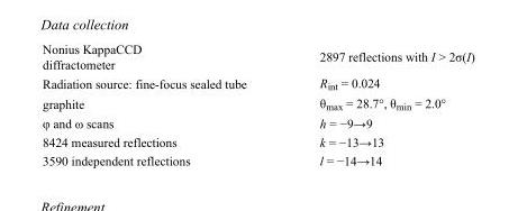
<table><tbody><tr><td>Nonius KappaCCD diffractometer</td><td>2897 reflections with I &gt; 2σ(I)</td></tr><tr><td>Radiation source: fine-focus sealed tube</td><td>R<sub>int</sub> = 0.024</td></tr><tr><td>graphite</td><td>θ<sub>max</sub> = 28.7°, θ<sub>min</sub> = 2.0°</td></tr><tr><td>φ and ω scans</td><td>h = −9→9</td></tr><tr><td>8424 measured reflections</td><td>k = −13→13</td></tr><tr><td>3590 independent reflections</td><td>l = −14→14</td></tr></tbody></table>